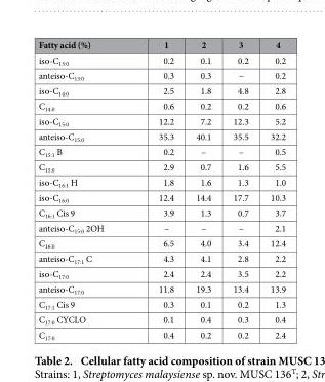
<table><thead><tr><td>Fatty acid (%)</td><td>1</td><td>2</td><td>3</td><td>4</td></tr></thead><tbody><tr><td>iso-C<sub>13:0</sub></td><td>0.2</td><td>0.1</td><td>0.2</td><td>0.2</td></tr><tr><td>anteiso-C<sub>13:0</sub></td><td>0.3</td><td>0.3</td><td>–</td><td>0.2</td></tr><tr><td>iso-C<sub>14:0</sub></td><td>2.5</td><td>1.8</td><td>4.8</td><td>2.8</td></tr><tr><td>C<sub>14:0</sub></td><td>0.6</td><td>0.2</td><td>0.2</td><td>0.6</td></tr><tr><td>iso-C<sub>15:0</sub></td><td>12.2</td><td>7.2</td><td>12.3</td><td>5.2</td></tr><tr><td>anteiso-C<sub>15:0</sub></td><td>35.3</td><td>40.1</td><td>35.5</td><td>32.2</td></tr><tr><td>C<sub>15:1</sub> B</td><td>0.2</td><td>–</td><td>–</td><td>0.5</td></tr><tr><td>C<sub>15:0</sub></td><td>2.9</td><td>0.7</td><td>1.6</td><td>5.5</td></tr><tr><td>iso-C<sub>16:1</sub> H</td><td>1.8</td><td>1.6</td><td>1.3</td><td>1.0</td></tr><tr><td>iso-C<sub>16:0</sub></td><td>12.4</td><td>14.4</td><td>17.7</td><td>10.3</td></tr><tr><td>C<sub>16:1</sub> Cis 9</td><td>3.9</td><td>1.3</td><td>0.7</td><td>3.7</td></tr><tr><td>anteiso-C<sub>15:0</sub> 2OH</td><td>–</td><td>–</td><td>–</td><td>2.1</td></tr><tr><td>C<sub>16:0</sub></td><td>6.5</td><td>4.0</td><td>3.4</td><td>12.4</td></tr><tr><td>anteiso-C<sub>17:1</sub> C</td><td>4.3</td><td>4.1</td><td>2.8</td><td>2.2</td></tr><tr><td>iso-C<sub>17:0</sub></td><td>2.4</td><td>2.4</td><td>3.5</td><td>2.2</td></tr><tr><td>anteiso-C<sub>17:0</sub></td><td>11.8</td><td>19.3</td><td>13.4</td><td>13.9</td></tr><tr><td>C<sub>17:1</sub> Cis 9</td><td>0.3</td><td>0.1</td><td>0.2</td><td>1.3</td></tr><tr><td>C<sub>17:0</sub> CYCLO</td><td>0.1</td><td>0.4</td><td>0.3</td><td>0.4</td></tr><tr><td>C<sub>17:0</sub></td><td>0.4</td><td>0.2</td><td>0.2</td><td>2.4</td></tr></tbody></table>